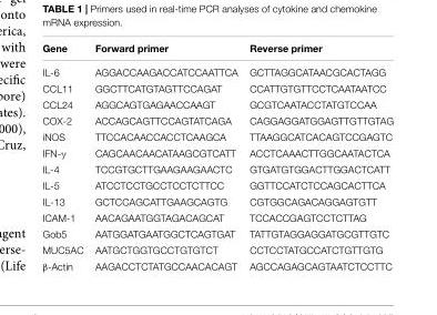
<table><thead><tr><td>Gene</td><td>Forward primer</td><td>Reverse primer</td></tr></thead><tbody><tr><td>IL-6</td><td>AGGACCAAGACCATCCAATTCA</td><td>GCTTAGGCATAACGCACTAGG</td></tr><tr><td>CCL11</td><td>GGCTTCATGTAGTTCCAGAT</td><td>CCATTGTGTTCCTCAATAATCC</td></tr><tr><td>CCL24</td><td>AGGCAGTGAGAACCAAGT</td><td>GCGTCAATACCTATGTCCAA</td></tr><tr><td>COX-2</td><td>ACCAGCAGTTCCAGTATCAGA</td><td>CAGGAGGATGGAGTTGTTGTAG</td></tr><tr><td>iNOS</td><td>TTCCACAACCACCTCAAGCA</td><td>TTAAGGCATCACAGTCCGAGTC</td></tr><tr><td>IFN-γ</td><td>CAGCAACAACATAAGCGTCATT</td><td>ACCTCAAACTTGGCAATACTCA</td></tr><tr><td>IL-4</td><td>TCCGTGCTTGAAGAAGAACTC</td><td>GTGATGTGGACTTGGACTCATT</td></tr><tr><td>IL-5</td><td>ATCCTCCTGCCTCCTCTTCC</td><td>GGTTCCATCTCCAGCACTTCA</td></tr><tr><td>IL-13</td><td>GCTCCAGCATTGAAGCAGTG</td><td>CGTGGCAGACAGGAGTGTT</td></tr><tr><td>ICAM-1</td><td>AACAGAATGGTAGACAGCAT</td><td>TCCACCGAGTCCTCTTAG</td></tr><tr><td>Gob5</td><td>AATGGATGAATGGCTCAGTGAT</td><td>TATTGTAGGAGGATGCGTTGTC</td></tr><tr><td>MUC5AC</td><td>AATGCTGGTGCCTGTGTCT</td><td>CCTCCTATGCCATCTGTTGTG</td></tr><tr><td>β-Actin</td><td>AAGACCTCTATGCCAACACAGT</td><td>AGCCAGAGCAGTAATCTCCTTC</td></tr></tbody></table>